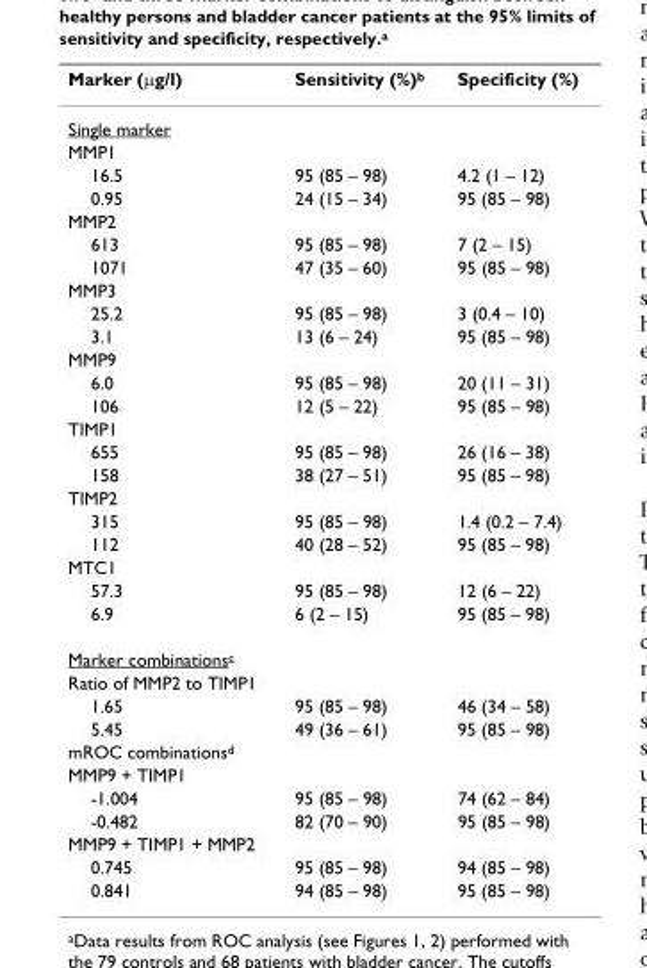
<table><thead><tr><td>Marker (μg/l)</td><td>Sensitivity (%)b</td><td>Specificity (%)</td></tr></thead><tbody><tr><td colspan="3">Single marker</td></tr><tr><td colspan="3">MMP1</td></tr><tr><td>16.5</td><td>95 (85 – 98)</td><td>4.2 (1 – 12)</td></tr><tr><td>0.95</td><td>24 (15 – 34)</td><td>95 (85 – 98)</td></tr><tr><td colspan="3">MMP2</td></tr><tr><td>613</td><td>95 (85 – 98)</td><td>7 (2 – 15)</td></tr><tr><td>1071</td><td>47 (35 – 60)</td><td>95 (85 – 98)</td></tr><tr><td colspan="3">MMP3</td></tr><tr><td>25.2</td><td>95 (85 – 98)</td><td>3 (0.4 – 10)</td></tr><tr><td>3.1</td><td>13 (6 – 24)</td><td>95 (85 – 98)</td></tr><tr><td colspan="3">MMP9</td></tr><tr><td>6.0</td><td>95 (85 – 98)</td><td>20 (11 – 31)</td></tr><tr><td>106</td><td>12 (5 – 22)</td><td>95 (85 – 98)</td></tr><tr><td colspan="3">TIMP1</td></tr><tr><td>655</td><td>95 (85 – 98)</td><td>26 (16 – 38)</td></tr><tr><td>158</td><td>38 (27 – 51)</td><td>95 (85 – 98)</td></tr><tr><td colspan="3">TIMP2</td></tr><tr><td>315</td><td>95 (85 – 98)</td><td>1.4 (0.2 – 7.4)</td></tr><tr><td>112</td><td>40 (28 – 52)</td><td>95 (85 – 98)</td></tr><tr><td colspan="3">MTC1</td></tr><tr><td>57.3</td><td>95 (85 – 98)</td><td>12 (6 – 22)</td></tr><tr><td>6.9</td><td>6 (2 – 15)</td><td>95 (85 – 98)</td></tr><tr><td colspan="3">Marker combinationsc</td></tr><tr><td colspan="3">Ratio of MMP2 to TIMP1</td></tr><tr><td>1.65</td><td>95 (85 – 98)</td><td>46 (34 – 58)</td></tr><tr><td>5.45</td><td>49 (36 – 61)</td><td>95 (85 – 98)</td></tr><tr><td colspan="3">mROC combinationsd</td></tr><tr><td colspan="3">MMP9 + TIMP1</td></tr><tr><td>-1.004</td><td>95 (85 – 98)</td><td>74 (62 – 84)</td></tr><tr><td>-0.482</td><td>82 (70 – 90)</td><td>95 (85 – 98)</td></tr><tr><td colspan="3">MMP9 + TIMP1 + MMP2</td></tr><tr><td>0.745</td><td>95 (85 – 98)</td><td>94 (85 – 98)</td></tr><tr><td>0.841</td><td>94 (85 – 98)</td><td>95 (85 – 98)</td></tr></tbody></table>